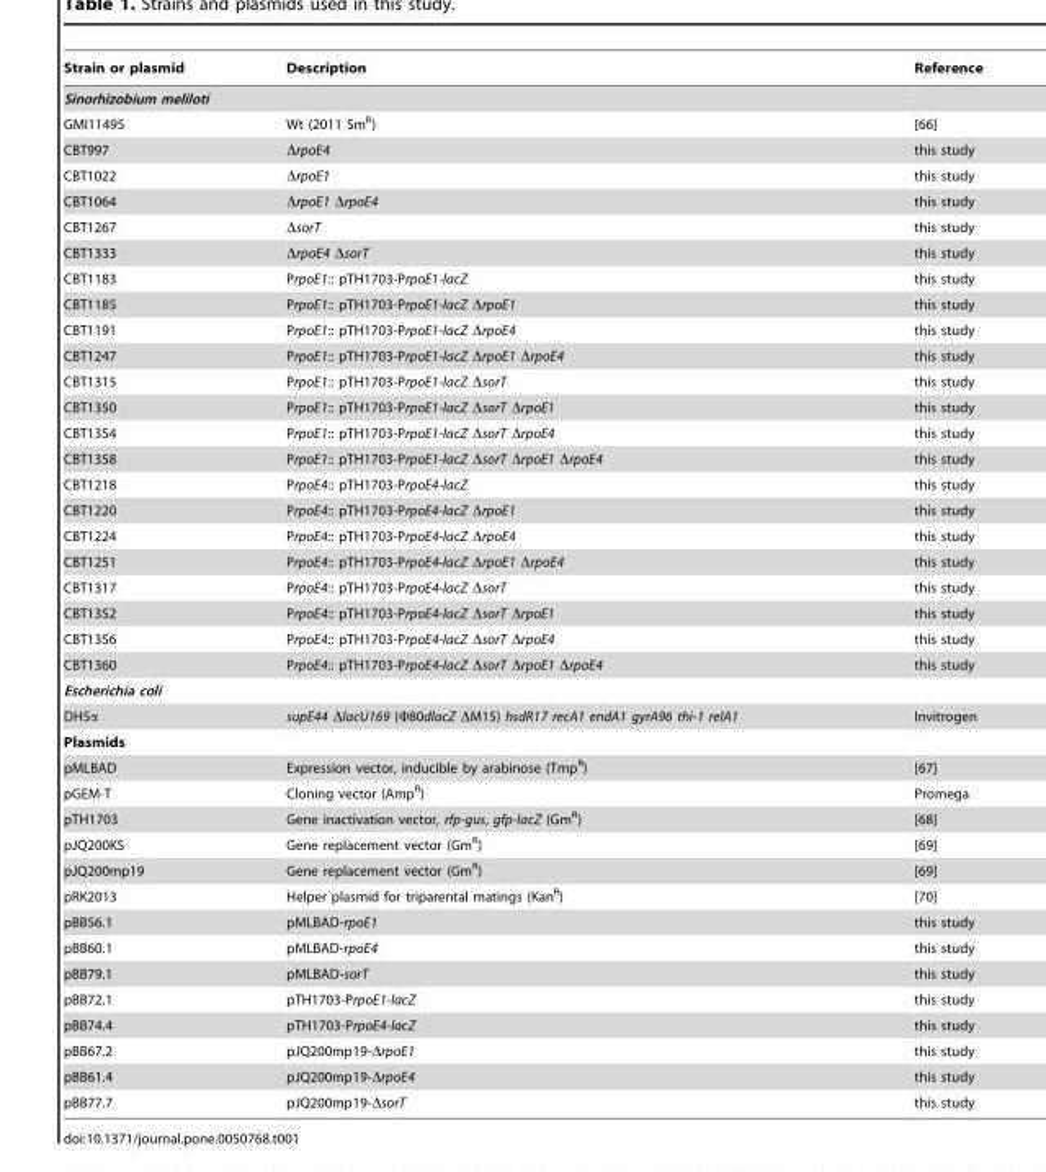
<table><thead><tr><td>Strain or plasmid</td><td>Description</td><td>Reference</td></tr></thead><tbody><tr><td colspan="3">Sinorhizobium meliloti</td></tr><tr><td>GMI11495</td><td>Wt (2011 Sm<sup>R</sup>)</td><td>[66]</td></tr><tr><td>CBT997</td><td>ΔrpoE4</td><td>this study</td></tr><tr><td>CBT1022</td><td>ΔrpoE1</td><td>this study</td></tr><tr><td>CBT1064</td><td>ΔrpoE1 ΔrpoE4</td><td>this study</td></tr><tr><td>CBT1267</td><td>ΔsorT</td><td>this study</td></tr><tr><td>CBT1333</td><td>ΔrpoE4 ΔsorT</td><td>this study</td></tr><tr><td>CBT1183</td><td>PrpoE1:: pTH1703-PrpoE1-lacZ</td><td>this study</td></tr><tr><td>CBT1185</td><td>PrpoE1:: pTH1703-PrpoE1-lacZ ΔrpoE1</td><td>this study</td></tr><tr><td>CBT1191</td><td>PrpoE1:: pTH1703-PrpoE1-lacZ ΔrpoE4</td><td>this study</td></tr><tr><td>CBT1247</td><td>PrpoE1:: pTH1703-PrpoE1-lacZ ΔrpoE1 ΔrpoE4</td><td>this study</td></tr><tr><td>CBT1315</td><td>PrpoE1:: pTH1703-PrpoE1-lacZ ΔsorT</td><td>this study</td></tr><tr><td>CBT1350</td><td>PrpoE1:: pTH1703-PrpoE1-lacZ ΔsorT ΔrpoE1</td><td>this study</td></tr><tr><td>CBT1354</td><td>PrpoE1:: pTH1703-PrpoE1-lacZ ΔsorT ΔrpoE4</td><td>this study</td></tr><tr><td>CBT1358</td><td>PrpoE1:: pTH1703-PrpoE1-lacZ ΔsorT ΔrpoE1 ΔrpoE4</td><td>this study</td></tr><tr><td>CBT1218</td><td>PrpoE4:: pTH1703-PrpoE4-lacZ</td><td>this study</td></tr><tr><td>CBT1220</td><td>PrpoE4:: pTH1703-PrpoE4-lacZ ΔrpoE1</td><td>this study</td></tr><tr><td>CBT1224</td><td>PrpoE4:: pTH1703-PrpoE4-lacZ ΔrpoE4</td><td>this study</td></tr><tr><td>CBT1251</td><td>PrpoE4:: pTH1703-PrpoE4-lacZ ΔrpoE1 ΔrpoE4</td><td>this study</td></tr><tr><td>CBT1317</td><td>PrpoE4:: pTH1703-PrpoE4-lacZ ΔsorT</td><td>this study</td></tr><tr><td>CBT1352</td><td>PrpoE4:: pTH1703-PrpoE4-lacZ ΔsorT ΔrpoE1</td><td>this study</td></tr><tr><td>CBT1356</td><td>PrpoE4:: pTH1703-PrpoE4-lacZ ΔsorT ΔrpoE4</td><td>this study</td></tr><tr><td>CBT1360</td><td>PrpoE4:: pTH1703-PrpoE4-lacZ ΔsorT ΔrpoE1 ΔrpoE4</td><td>this study</td></tr><tr><td colspan="3">Escherichia coli</td></tr><tr><td>DH5α</td><td>supE44 ΔlacU169 (Φ80dlacZ ΔM15) hsdR17 recA1 endA1 gyrA96 thi-1 relA1</td><td>Invitrogen</td></tr><tr><td colspan="3">Plasmids</td></tr><tr><td>pMLBAD</td><td>Expression vector, inducible by arabinose (Tmp<sup>R</sup>)</td><td>[67]</td></tr><tr><td>pGEM-T</td><td>Cloning vector (Amp<sup>R</sup>)</td><td>Promega</td></tr><tr><td>pTH1703</td><td>Gene inactivation vector, rfp-gus, gfp-lacZ (Gm<sup>R</sup>)</td><td>[68]</td></tr><tr><td>pJQ200KS</td><td>Gene replacement vector (Gm<sup>R</sup>)</td><td>[69]</td></tr><tr><td>pJQ200mp19</td><td>Gene replacement vector (Gm<sup>R</sup>)</td><td>[69]</td></tr><tr><td>pRK2013</td><td>Helper plasmid for triparental matings (Kan<sup>R</sup>)</td><td>[70]</td></tr><tr><td>pBB56.1</td><td>pMLBAD-rpoE1</td><td>this study</td></tr><tr><td>pBB60.1</td><td>pMLBAD-rpoE4</td><td>this study</td></tr><tr><td>pBB79.1</td><td>pMLBAD-sorT</td><td>this study</td></tr><tr><td>pBB72.1</td><td>pTH1703-PrpoE1-lacZ</td><td>this study</td></tr><tr><td>pBB74.4</td><td>pTH1703-PrpoE4-lacZ</td><td>this study</td></tr><tr><td>pBB67.2</td><td>pJQ200mp19-ΔrpoE1</td><td>this study</td></tr><tr><td>pBB61.4</td><td>pJQ200mp19-ΔrpoE4</td><td>this study</td></tr><tr><td>pBB77.7</td><td>pJQ200mp19-ΔsorT</td><td>this study</td></tr></tbody></table>